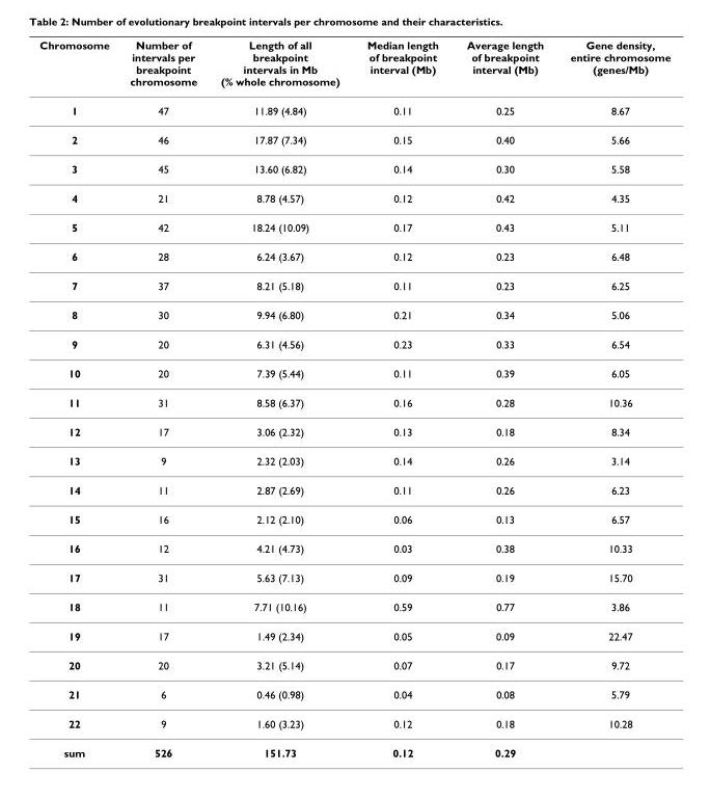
<table><thead><tr><td>Chromosome</td><td>Number of intervals per breakpoint chromosome</td><td>Length of all breakpoint intervals in Mb (% whole chromosome)</td><td>Median length of breakpoint interval (Mb)</td><td>Average length of breakpoint interval (Mb)</td><td>Gene density, entire chromosome (genes/Mb)</td></tr></thead><tbody><tr><td>1</td><td>47</td><td>11.89 (4.84)</td><td>0.11</td><td>0.25</td><td>8.67</td></tr><tr><td>2</td><td>46</td><td>17.87 (7.34)</td><td>0.15</td><td>0.40</td><td>5.66</td></tr><tr><td>3</td><td>45</td><td>13.60 (6.82)</td><td>0.14</td><td>0.30</td><td>5.58</td></tr><tr><td>4</td><td>21</td><td>8.78 (4.57)</td><td>0.12</td><td>0.42</td><td>4.35</td></tr><tr><td>5</td><td>42</td><td>18.24 (10.09)</td><td>0.17</td><td>0.43</td><td>5.11</td></tr><tr><td>6</td><td>28</td><td>6.24 (3.67)</td><td>0.12</td><td>0.23</td><td>6.48</td></tr><tr><td>7</td><td>37</td><td>8.21 (5.18)</td><td>0.11</td><td>0.23</td><td>6.25</td></tr><tr><td>8</td><td>30</td><td>9.94 (6.80)</td><td>0.21</td><td>0.34</td><td>5.06</td></tr><tr><td>9</td><td>20</td><td>6.31 (4.56)</td><td>0.23</td><td>0.33</td><td>6.54</td></tr><tr><td>10</td><td>20</td><td>7.39 (5.44)</td><td>0.11</td><td>0.39</td><td>6.05</td></tr><tr><td>11</td><td>31</td><td>8.58 (6.37)</td><td>0.16</td><td>0.28</td><td>10.36</td></tr><tr><td>12</td><td>17</td><td>3.06 (2.32)</td><td>0.13</td><td>0.18</td><td>8.34</td></tr><tr><td>13</td><td>9</td><td>2.32 (2.03)</td><td>0.14</td><td>0.26</td><td>3.14</td></tr><tr><td>14</td><td>11</td><td>2.87 (2.69)</td><td>0.11</td><td>0.26</td><td>6.23</td></tr><tr><td>15</td><td>16</td><td>2.12 (2.10)</td><td>0.06</td><td>0.13</td><td>6.57</td></tr><tr><td>16</td><td>12</td><td>4.21 (4.73)</td><td>0.03</td><td>0.38</td><td>10.33</td></tr><tr><td>17</td><td>31</td><td>5.63 (7.13)</td><td>0.09</td><td>0.19</td><td>15.70</td></tr><tr><td>18</td><td>11</td><td>7.71 (10.16)</td><td>0.59</td><td>0.77</td><td>3.86</td></tr><tr><td>19</td><td>17</td><td>1.49 (2.34)</td><td>0.05</td><td>0.09</td><td>22.47</td></tr><tr><td>20</td><td>20</td><td>3.21 (5.14)</td><td>0.07</td><td>0.17</td><td>9.72</td></tr><tr><td>21</td><td>6</td><td>0.46 (0.98)</td><td>0.04</td><td>0.08</td><td>5.79</td></tr><tr><td>22</td><td>9</td><td>1.60 (3.23)</td><td>0.12</td><td>0.18</td><td>10.28</td></tr><tr><td>sum</td><td>526</td><td>151.73</td><td>0.12</td><td>0.29</td><td></td></tr></tbody></table>